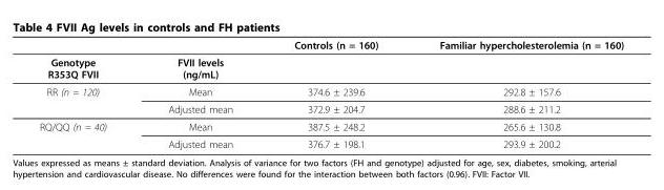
<table><thead><tr><td></td><td></td><td>Controls (n = 160)</td><td>Familiar hypercholesterolemia (n = 160)</td></tr></thead><tbody><tr><td>Genotype R353Q FVII</td><td>FVII levels (ng/mL)</td><td></td><td></td></tr><tr><td rowspan="2">RR (n = 120)</td><td>Mean</td><td>374.6 ± 239.6</td><td>292.8 ± 157.6</td></tr><tr><td>Adjusted mean</td><td>372.9 ± 204.7</td><td>288.6 ± 211.2</td></tr><tr><td rowspan="2">RQ/QQ (n = 40)</td><td>Mean</td><td>387.5 ± 248.2</td><td>265.6 ± 130.8</td></tr><tr><td>Adjusted mean</td><td>376.7 ± 198.1</td><td>293.9 ± 200.2</td></tr></tbody></table>